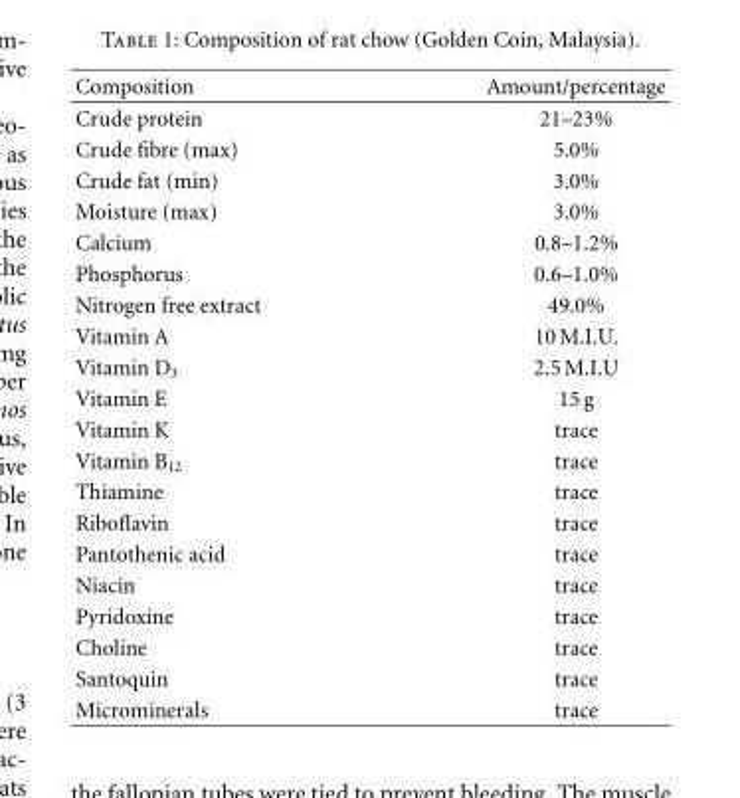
<table><thead><tr><td>Composition</td><td>Amount/percentage</td></tr></thead><tbody><tr><td>Crude protein</td><td>21–23%</td></tr><tr><td>Crude fibre (max)</td><td>5.0%</td></tr><tr><td>Crude fat (min)</td><td>3.0%</td></tr><tr><td>Moisture (max)</td><td>3.0%</td></tr><tr><td>Calcium</td><td>0.8–1.2%</td></tr><tr><td>Phosphorus</td><td>0.6–1.0%</td></tr><tr><td>Nitrogen free extract</td><td>49.0%</td></tr><tr><td>Vitamin A</td><td>10 M.I.U.</td></tr><tr><td>Vitamin D<sub>3</sub></td><td>2.5 M.I.U</td></tr><tr><td>Vitamin E</td><td>15 g</td></tr><tr><td>Vitamin K</td><td>trace</td></tr><tr><td>Vitamin B<sub>12</sub></td><td>trace</td></tr><tr><td>Thiamine</td><td>trace</td></tr><tr><td>Riboflavin</td><td>trace</td></tr><tr><td>Pantothenic acid</td><td>trace</td></tr><tr><td>Niacin</td><td>trace</td></tr><tr><td>Pyridoxine</td><td>trace</td></tr><tr><td>Choline</td><td>trace</td></tr><tr><td>Santoquin</td><td>trace</td></tr><tr><td>Microminerals</td><td>trace</td></tr></tbody></table>